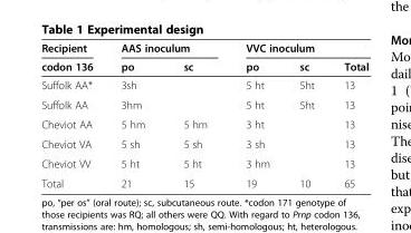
<table><thead><tr><td rowspan="2">Recipient codon 136</td><td colspan="2">AAS inoculum</td><td colspan="3">VVC inoculum</td></tr><tr><td>po</td><td>sc</td><td>po</td><td>sc</td><td>Total</td></tr></thead><tbody><tr><td>Suffolk AA*</td><td>3sh</td><td></td><td>5 ht</td><td>5ht</td><td>13</td></tr><tr><td>Suffolk AA</td><td>3hm</td><td></td><td>5 ht</td><td>5ht</td><td>13</td></tr><tr><td>Cheviot AA</td><td>5 hm</td><td>5 hm</td><td>3 ht</td><td></td><td>13</td></tr><tr><td>Cheviot VA</td><td>5 sh</td><td>5 sh</td><td>3 sh</td><td></td><td>13</td></tr><tr><td>Cheviot VV</td><td>5 ht</td><td>5 ht</td><td>3 hm</td><td></td><td>13</td></tr><tr><td>Total</td><td>21</td><td>15</td><td>19</td><td>10</td><td>65</td></tr></tbody></table>